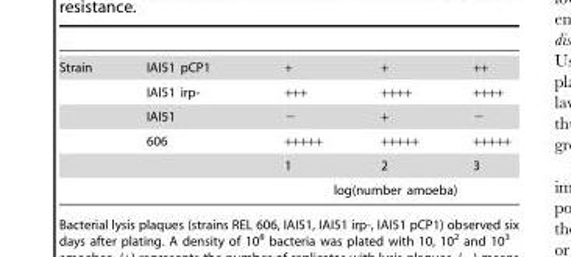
<table><tbody><tr><td rowspan="6">Strain</td><td>IAI51 pCP1</td><td>+</td><td>+</td><td>++</td></tr><tr><td>IAI51 irp-</td><td>+++</td><td>++++</td><td>++++</td></tr><tr><td>IAI51</td><td>−</td><td>+</td><td>−</td></tr><tr><td>606</td><td>+++++</td><td>+++++</td><td>+++++</td></tr><tr><td></td><td>1</td><td>2</td><td>3</td></tr><tr><td></td><td colspan="3">log(number amoeba)</td></tr></tbody></table>